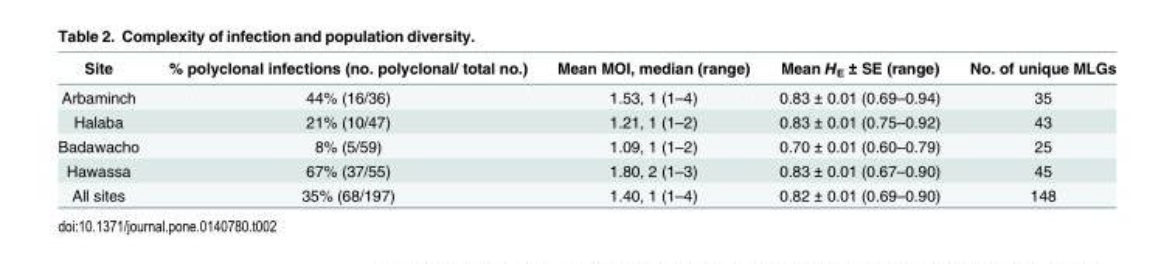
<table><thead><tr><td>Site</td><td>% polyclonal infections (no. polyclonal/ total no.)</td><td>Mean MOI, median (range)</td><td>Mean H<sub>E</sub> ± SE (range)</td><td>No. of unique MLGs</td></tr></thead><tbody><tr><td>Arbaminch</td><td>44% (16/36)</td><td>1.53, 1 (1–4)</td><td>0.83 ± 0.01 (0.69–0.94)</td><td>35</td></tr><tr><td>Halaba</td><td>21% (10/47)</td><td>1.21, 1 (1–2)</td><td>0.83 ± 0.01 (0.75–0.92)</td><td>43</td></tr><tr><td>Badawacho</td><td>8% (5/59)</td><td>1.09, 1 (1–2)</td><td>0.70 ± 0.01 (0.60–0.79)</td><td>25</td></tr><tr><td>Hawassa</td><td>67% (37/55)</td><td>1.80, 2 (1–3)</td><td>0.83 ± 0.01 (0.67–0.90)</td><td>45</td></tr><tr><td>All sites</td><td>35% (68/197)</td><td>1.40, 1 (1–4)</td><td>0.82 ± 0.01 (0.69–0.90)</td><td>148</td></tr></tbody></table>